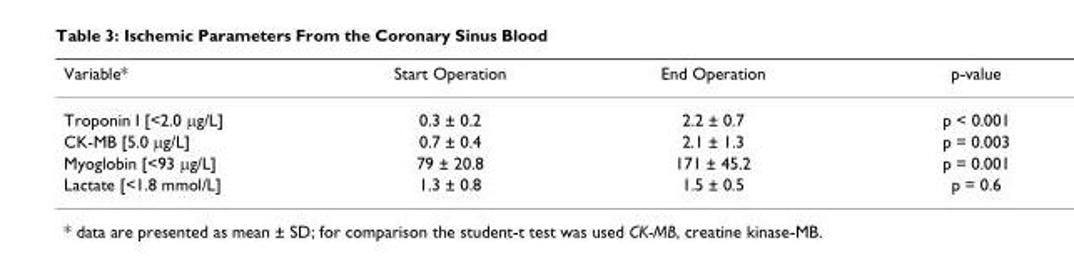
<table><thead><tr><td>Variable*</td><td>Start Operation</td><td>End Operation</td><td>p-value</td></tr></thead><tbody><tr><td>Troponin I [&lt;2.0 μg/L]</td><td>0.3 ± 0.2</td><td>2.2 ± 0.7</td><td>p &lt; 0.001</td></tr><tr><td>CK-MB [5.0 μg/L]</td><td>0.7 ± 0.4</td><td>2.1 ± 1.3</td><td>p = 0.003</td></tr><tr><td>Myoglobin [&lt;93 μg/L]</td><td>79 ± 20.8</td><td>171 ± 45.2</td><td>p = 0.001</td></tr><tr><td>Lactate [&lt;1.8 mmol/L]</td><td>1.3 ± 0.8</td><td>1.5 ± 0.5</td><td>p = 0.6</td></tr></tbody></table>